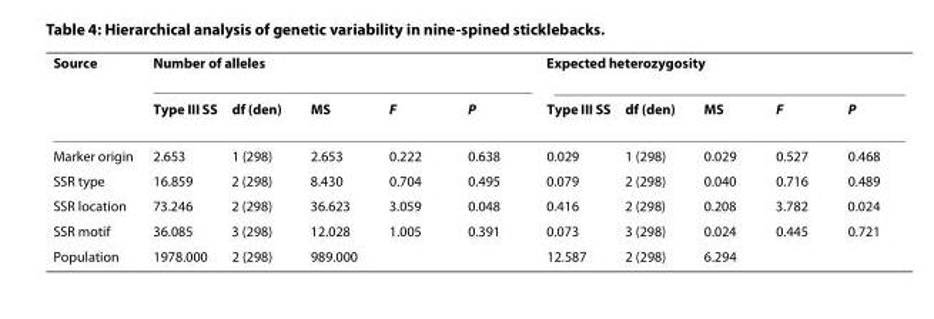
<table><thead><tr><td rowspan="2">Source</td><td colspan="5">Number of alleles</td><td colspan="5">Expected heterozygosity</td></tr><tr><td>Type III SS</td><td>df (den)</td><td>MS</td><td>F</td><td>P</td><td>Type III SS</td><td>df (den)</td><td>MS</td><td>F</td><td>P</td></tr></thead><tbody><tr><td>Marker origin</td><td>2.653</td><td>1 (298)</td><td>2.653</td><td>0.222</td><td>0.638</td><td>0.029</td><td>1 (298)</td><td>0.029</td><td>0.527</td><td>0.468</td></tr><tr><td>SSR type</td><td>16.859</td><td>2 (298)</td><td>8.430</td><td>0.704</td><td>0.495</td><td>0.079</td><td>2 (298)</td><td>0.040</td><td>0.716</td><td>0.489</td></tr><tr><td>SSR location</td><td>73.246</td><td>2 (298)</td><td>36.623</td><td>3.059</td><td>0.048</td><td>0.416</td><td>2 (298)</td><td>0.208</td><td>3.782</td><td>0.024</td></tr><tr><td>SSR motif</td><td>36.085</td><td>3 (298)</td><td>12.028</td><td>1.005</td><td>0.391</td><td>0.073</td><td>3 (298)</td><td>0.024</td><td>0.445</td><td>0.721</td></tr><tr><td>Population</td><td>1978.000</td><td>2 (298)</td><td>989.000</td><td></td><td></td><td>12.587</td><td>2 (298)</td><td>6.294</td><td></td><td></td></tr></tbody></table>